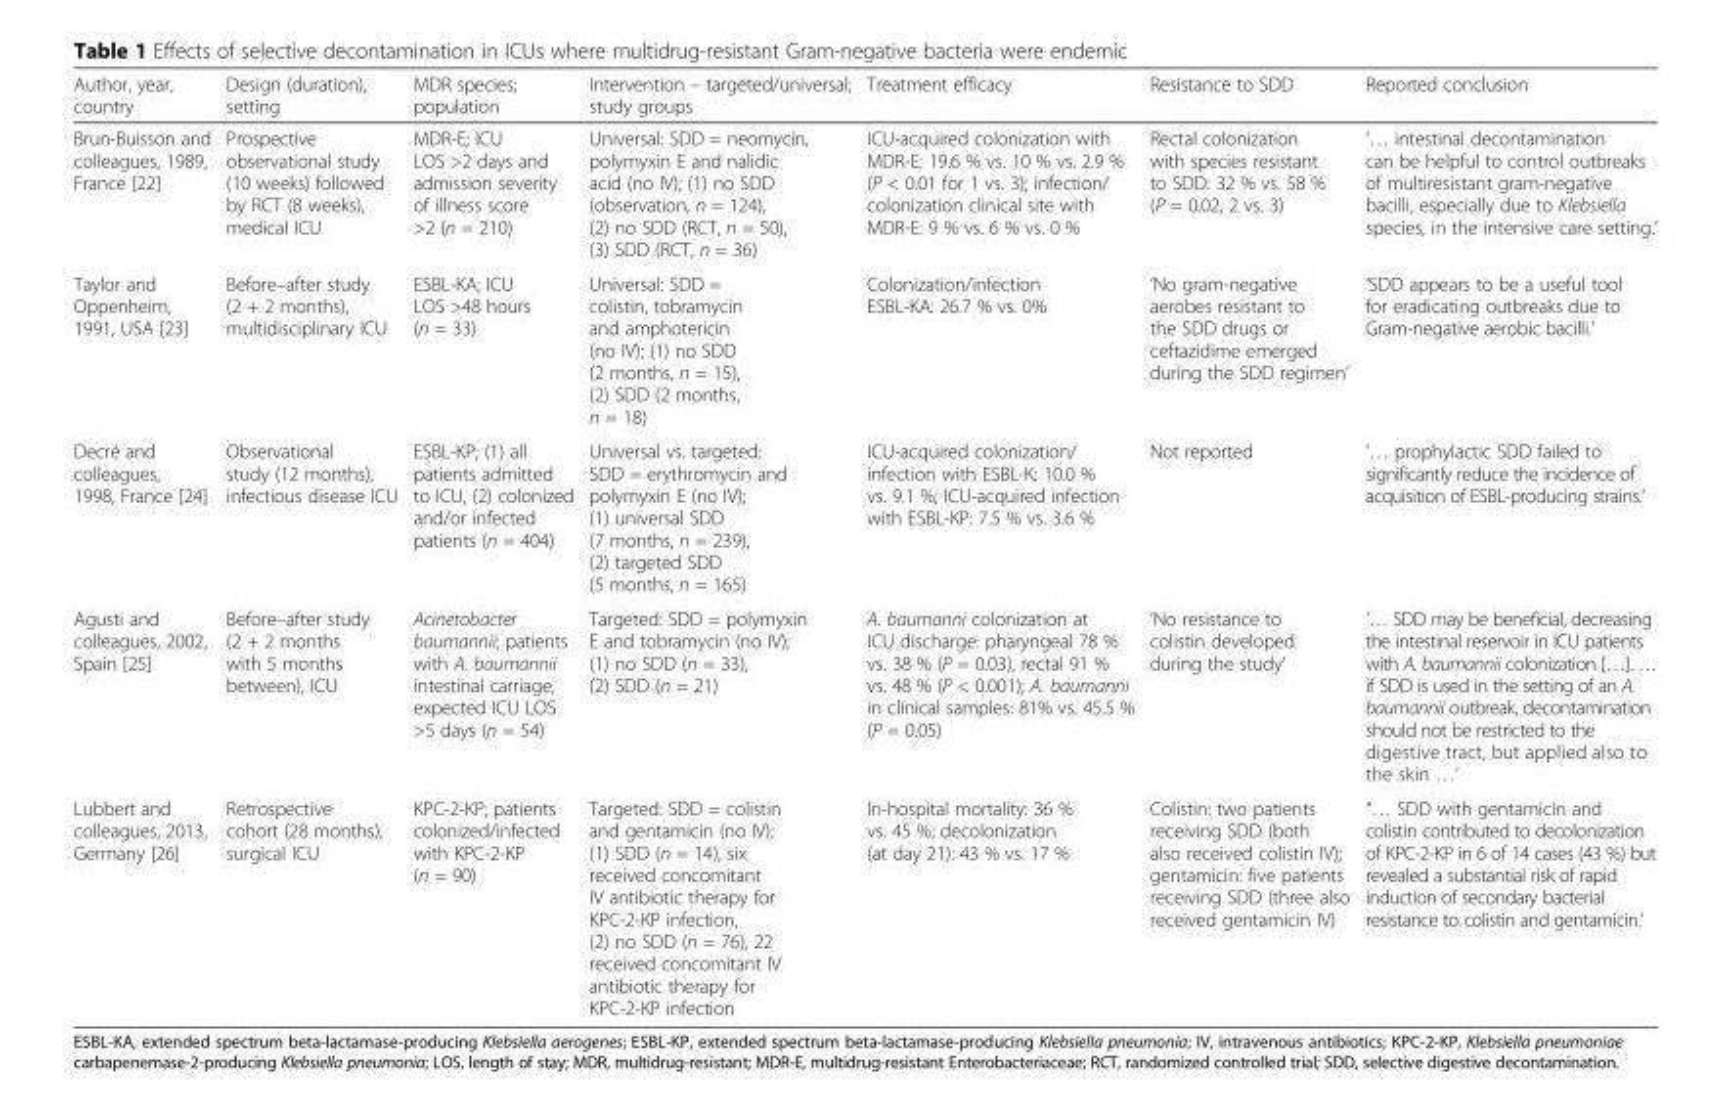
<table><thead><tr><td>Author, year, country</td><td>Design (duration), setting</td><td>MDR species; population</td><td>Intervention – targeted/universal; study groups</td><td>Treatment efficacy</td><td>Resistance to SDD</td><td>Reported conclusion</td></tr></thead><tbody><tr><td>Brun-Buisson and colleagues, 1989, France [22]</td><td>Prospective observational study (10 weeks) followed by RCT (8 weeks), medical ICU</td><td>MDR-E; ICU LOS &gt;2 days and admission severity of illness score &gt;2 (n = 210)</td><td>Universal: SDD = neomycin, polymyxin E and nalidic acid (no IV); (1) no SDD (observation, n = 124), (2) no SDD (RCT, n = 50), (3) SDD (RCT, n = 36)</td><td>ICU-acquired colonization with MDR-E: 19.6 % vs. 10 % vs. 2.9 % (P &lt; 0.01 for 1 vs. 3); infection/ colonization clinical site with MDR-E: 9 % vs. 6 % vs. 0 %</td><td>Rectal colonization with species resistant to SDD: 32 % vs. 58 % (P = 0.02, 2 vs. 3)</td><td>‘… intestinal decontamination can be helpful to control outbreaks of multiresistant gram-negative bacilli, especially due to Klebsiella species, in the intensive care setting.’</td></tr><tr><td>Taylor and Oppenheim, 1991, USA [23]</td><td>Before–after study (2 + 2 months), multidisciplinary ICU</td><td>ESBL-KA; ICU LOS &gt;48 hours (n = 33)</td><td>Universal: SDD = colistin, tobramycin and amphotericin (no IV); (1) no SDD (2 months, n = 15), (2) SDD (2 months, n = 18)</td><td>Colonization/infection ESBL-KA: 26.7 % vs. 0%</td><td>‘No gram-negative aerobes resistant to the SDD drugs or ceftazidime emerged during the SDD regimen’</td><td>‘SDD appears to be a useful tool for eradicating outbreaks due to Gram-negative aerobic bacilli.’</td></tr><tr><td>Decré and colleagues, 1998, France [24]</td><td>Observational study (12 months), infectious disease ICU</td><td>ESBL-KP; (1) all patients admitted to ICU, (2) colonized and/or infected patients (n = 404)</td><td>Universal vs. targeted: SDD = erythromycin and polymyxin E (no IV); (1) universal SDD (7 months, n = 239), (2) targeted SDD (5 months, n = 165)</td><td>ICU-acquired colonization/ infection with ESBL-K: 10.0 % vs. 9.1 %; ICU-acquired infection with ESBL-KP: 7.5 % vs. 3.6 %</td><td>Not reported</td><td>’… prophylactic SDD failed to significantly reduce the incidence of acquisition of ESBL-producing strains.’</td></tr><tr><td>Agusti and colleagues, 2002, Spain [25]</td><td>Before–after study (2 + 2 months with 5 months between), ICU</td><td>Acinetobacter baumannii; patients with A. baumannii intestinal carriage, expected ICU LOS &gt;5 days (n = 54)</td><td>Targeted: SDD = polymyxin E and tobramycin (no IV); (1) no SDD (n = 33), (2) SDD (n = 21)</td><td>A. baumanni colonization at ICU discharge: pharyngeal 78 % vs. 38 % (P = 0.03), rectal 91 % vs. 48 % (P &lt; 0.001); A. baumanni in clinical samples: 81% vs. 45.5 % (P = 0.05)</td><td>‘No resistance to colistin developed during the study’</td><td>‘… SDD may be beneficial, decreasing the intestinal reservoir in ICU patients with A. baumannii colonization […]. … if SDD is used in the setting of an A. baumannii outbreak, decontamination should not be restricted to the digestive tract, but applied also to the skin …’</td></tr><tr><td>Lubbert and colleagues, 2013, Germany [26]</td><td>Retrospective cohort (28 months), surgical ICU</td><td>KPC-2-KP; patients colonized/infected with KPC-2-KP (n = 90)</td><td>Targeted: SDD = colistin and gentamicin (no IV); (1) SDD (n = 14), six received concomitant IV antibiotic therapy for KPC-2-KP infection, (2) no SDD (n = 76), 22 received concomitant IV antibiotic therapy for KPC-2-KP infection</td><td>In-hospital mortality: 36 % vs. 45 %; decolonization (at day 21): 43 % vs. 17 %</td><td>Colistin: two patients receiving SDD (both also received colistin IV); gentamicin: five patients receiving SDD (three also received gentamicin IV)</td><td>“… SDD with gentamicin and colistin contributed to decolonization of KPC-2-KP in 6 of 14 cases (43 %) but revealed a substantial risk of rapid induction of secondary bacterial resistance to colistin and gentamicin.’</td></tr></tbody></table>